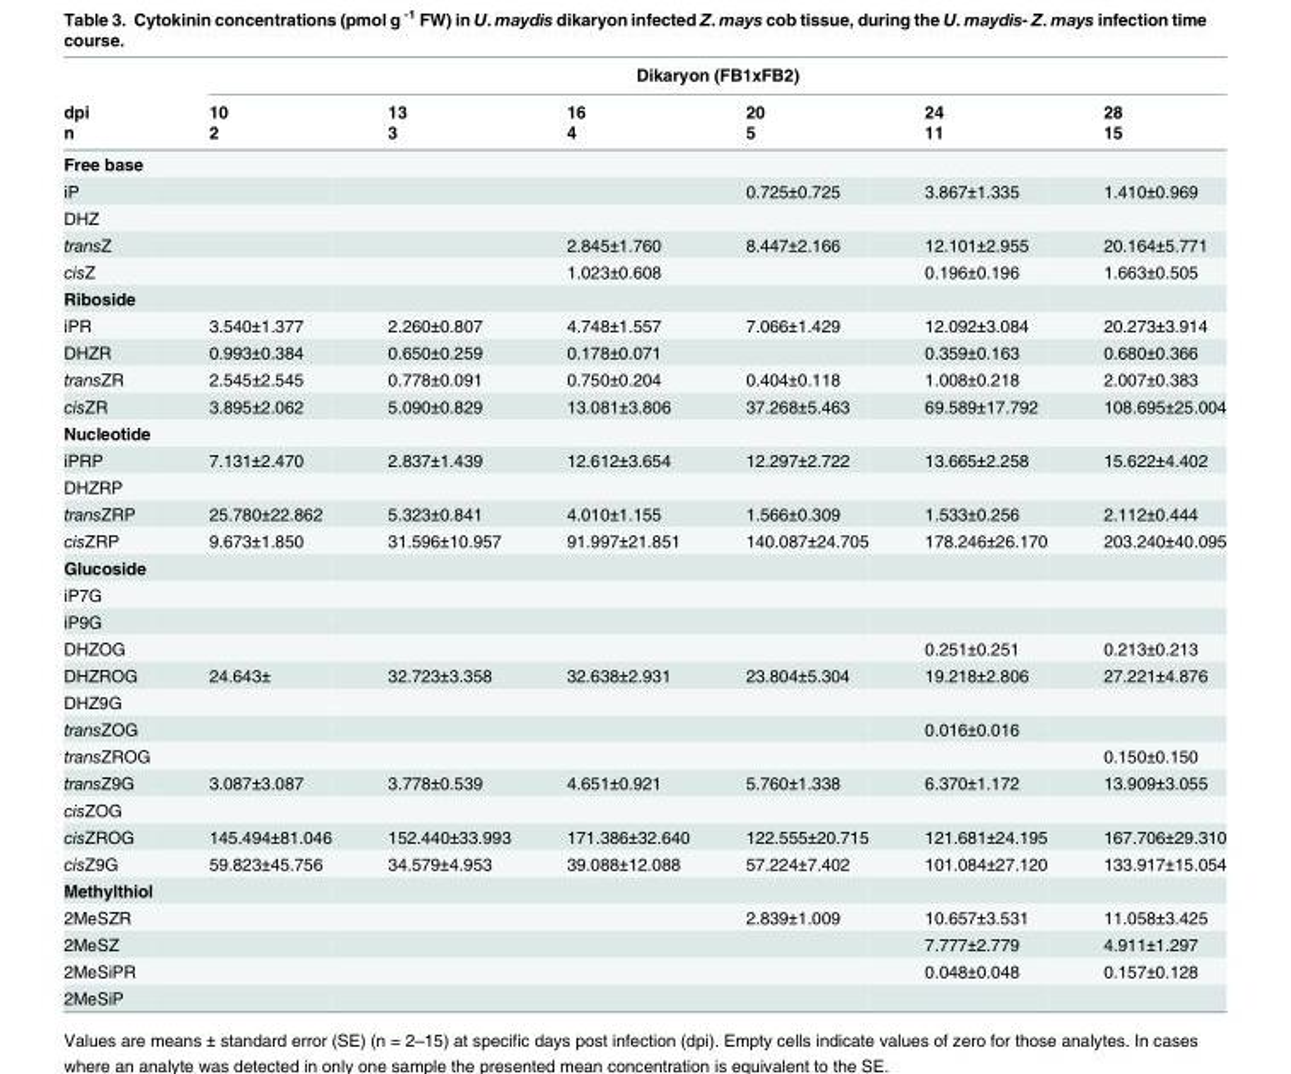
<table><thead><tr><td rowspan="3">dpi n</td><td colspan="6">Dikaryon (FB1xFB2)</td></tr><tr><td rowspan="2">10 2</td><td rowspan="2">13 3</td><td rowspan="2">16 4</td><td rowspan="2">20 5</td><td rowspan="2">24 11</td><td rowspan="2">28 15</td></tr><tr></tr></thead><tbody><tr><td colspan="7">Free base</td></tr><tr><td>iP</td><td></td><td></td><td></td><td>0.725±0.725</td><td>3.867±1.335</td><td>1.410±0.969</td></tr><tr><td colspan="7">DHZ</td></tr><tr><td>transZ</td><td></td><td></td><td>2.845±1.760</td><td>8.447±2.166</td><td>12.101±2.955</td><td>20.164±5.771</td></tr><tr><td>cisZ</td><td></td><td></td><td>1.023±0.608</td><td></td><td>0.196±0.196</td><td>1.663±0.505</td></tr><tr><td colspan="7">Riboside</td></tr><tr><td>iPR</td><td>3.540±1.377</td><td>2.260±0.807</td><td>4.748±1.557</td><td>7.066±1.429</td><td>12.092±3.084</td><td>20.273±3.914</td></tr><tr><td>DHZR</td><td>0.993±0.384</td><td>0.650±0.259</td><td>0.178±0.071</td><td></td><td>0.359±0.163</td><td>0.680±0.366</td></tr><tr><td>transZR</td><td>2.545±2.545</td><td>0.778±0.091</td><td>0.750±0.204</td><td>0.404±0.118</td><td>1.008±0.218</td><td>2.007±0.383</td></tr><tr><td>cisZR</td><td>3.895±2.062</td><td>5.090±0.829</td><td>13.081±3.806</td><td>37.268±5.463</td><td>69.589±17.792</td><td>108.695±25.004</td></tr><tr><td colspan="7">Nucleotide</td></tr><tr><td>iPRP</td><td>7.131±2.470</td><td>2.837±1.439</td><td>12.612±3.654</td><td>12.297±2.722</td><td>13.665±2.258</td><td>15.622±4.402</td></tr><tr><td colspan="7">DHZRP</td></tr><tr><td>transZRP</td><td>25.780±22.862</td><td>5.323±0.841</td><td>4.010±1.155</td><td>1.566±0.309</td><td>1.533±0.256</td><td>2.112±0.444</td></tr><tr><td>cisZRP</td><td>9.673±1.850</td><td>31.596±10.957</td><td>91.997±21.851</td><td>140.087±24.705</td><td>178.246±26.170</td><td>203.240±40.095</td></tr><tr><td colspan="7">Glucoside</td></tr><tr><td colspan="7">iP7G</td></tr><tr><td colspan="7">iP9G</td></tr><tr><td>DHZOG</td><td></td><td></td><td></td><td></td><td>0.251±0.251</td><td>0.213±0.213</td></tr><tr><td>DHZROG</td><td>24.643±</td><td>32.723±3.358</td><td>32.638±2.931</td><td>23.804±5.304</td><td>19.218±2.806</td><td>27.221±4.876</td></tr><tr><td colspan="7">DHZ9G</td></tr><tr><td>transZOG</td><td></td><td></td><td></td><td></td><td>0.016±0.016</td><td></td></tr><tr><td>transZROG</td><td></td><td></td><td></td><td></td><td></td><td>0.150±0.150</td></tr><tr><td>transZ9G</td><td>3.087±3.087</td><td>3.778±0.539</td><td>4.651±0.921</td><td>5.760±1.338</td><td>6.370±1.172</td><td>13.909±3.055</td></tr><tr><td colspan="7">cisZOG</td></tr><tr><td>cisZROG</td><td>145.494±81.046</td><td>152.440±33.993</td><td>171.386±32.640</td><td>122.555±20.715</td><td>121.681±24.195</td><td>167.706±29.310</td></tr><tr><td>cisZ9G</td><td>59.823±45.756</td><td>34.579±4.953</td><td>39.088±12.088</td><td>57.224±7.402</td><td>101.084±27.120</td><td>133.917±15.054</td></tr><tr><td colspan="7">Methylthiol</td></tr><tr><td>2MeSZR</td><td></td><td></td><td></td><td>2.839±1.009</td><td>10.657±3.531</td><td>11.058±3.425</td></tr><tr><td>2MeSZ</td><td></td><td></td><td></td><td></td><td>7.777±2.779</td><td>4.911±1.297</td></tr><tr><td>2MeSiPR</td><td></td><td></td><td></td><td></td><td>0.048±0.048</td><td>0.157±0.128</td></tr><tr><td>2MeSiP</td><td></td><td></td><td></td><td></td><td></td><td></td></tr></tbody></table>